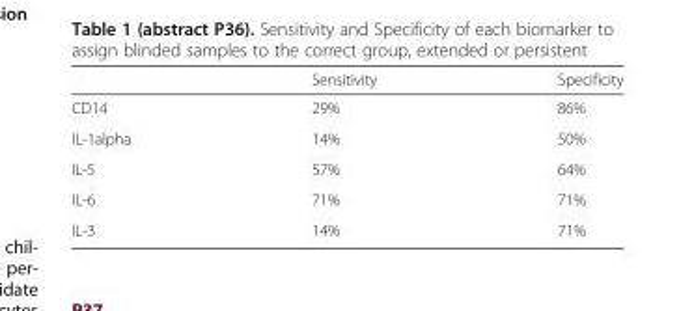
<table><thead><tr><td></td><td>Sensitivity</td><td>Specificity</td></tr></thead><tbody><tr><td>CD14</td><td>29%</td><td>86%</td></tr><tr><td>IL-1alpha</td><td>14%</td><td>50%</td></tr><tr><td>IL-5</td><td>57%</td><td>64%</td></tr><tr><td>IL-6</td><td>71%</td><td>71%</td></tr><tr><td>IL-3</td><td>14%</td><td>71%</td></tr></tbody></table>